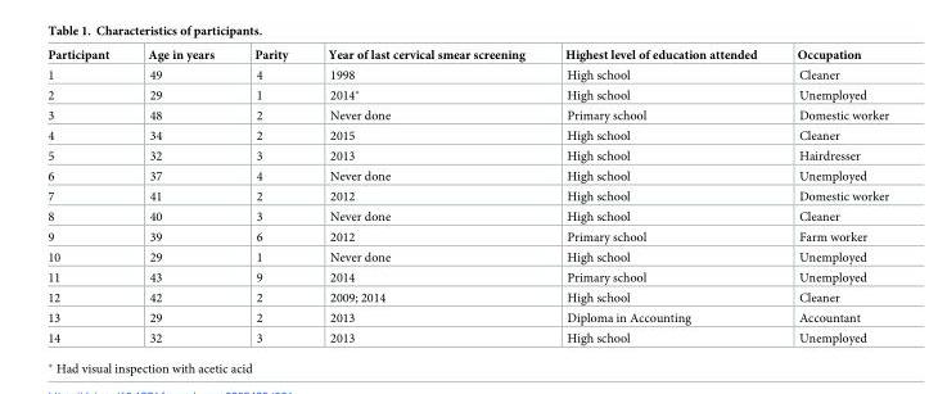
<table><thead><tr><td>Participant</td><td>Age in years</td><td>Parity</td><td>Year of last cervical smear screening</td><td>Highest level of education attended</td><td>Occupation</td></tr></thead><tbody><tr><td>1</td><td>49</td><td>4</td><td>1998</td><td>High school</td><td>Cleaner</td></tr><tr><td>2</td><td>29</td><td>1</td><td>2014*</td><td>High school</td><td>Unemployed</td></tr><tr><td>3</td><td>48</td><td>2</td><td>Never done</td><td>Primary school</td><td>Domestic worker</td></tr><tr><td>4</td><td>34</td><td>2</td><td>2015</td><td>High school</td><td>Cleaner</td></tr><tr><td>5</td><td>32</td><td>3</td><td>2013</td><td>High school</td><td>Hairdresser</td></tr><tr><td>6</td><td>37</td><td>4</td><td>Never done</td><td>High school</td><td>Unemployed</td></tr><tr><td>7</td><td>41</td><td>2</td><td>2012</td><td>High school</td><td>Domestic worker</td></tr><tr><td>8</td><td>40</td><td>3</td><td>Never done</td><td>High school</td><td>Cleaner</td></tr><tr><td>9</td><td>39</td><td>6</td><td>2012</td><td>Primary school</td><td>Farm worker</td></tr><tr><td>10</td><td>29</td><td>1</td><td>Never done</td><td>High school</td><td>Unemployed</td></tr><tr><td>11</td><td>43</td><td>9</td><td>2014</td><td>Primary school</td><td>Unemployed</td></tr><tr><td>12</td><td>42</td><td>2</td><td>2009; 2014</td><td>High school</td><td>Cleaner</td></tr><tr><td>13</td><td>29</td><td>2</td><td>2013</td><td>Diploma in Accounting</td><td>Accountant</td></tr><tr><td>14</td><td>32</td><td>3</td><td>2013</td><td>High school</td><td>Unemployed</td></tr></tbody></table>